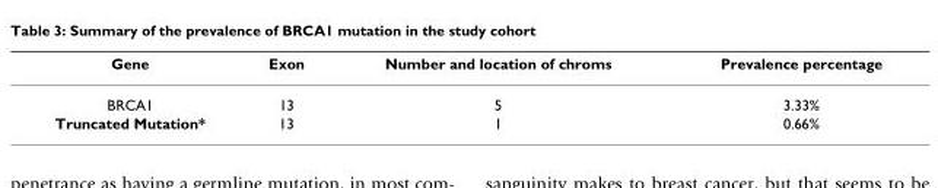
<table><thead><tr><td>Gene</td><td>Exon</td><td>Number and location of chroms</td><td>Prevalence percentage</td></tr></thead><tbody><tr><td>BRCA1</td><td>13</td><td>5</td><td>3.33%</td></tr><tr><td>Truncated Mutation*</td><td>13</td><td>1</td><td>0.66%</td></tr></tbody></table>